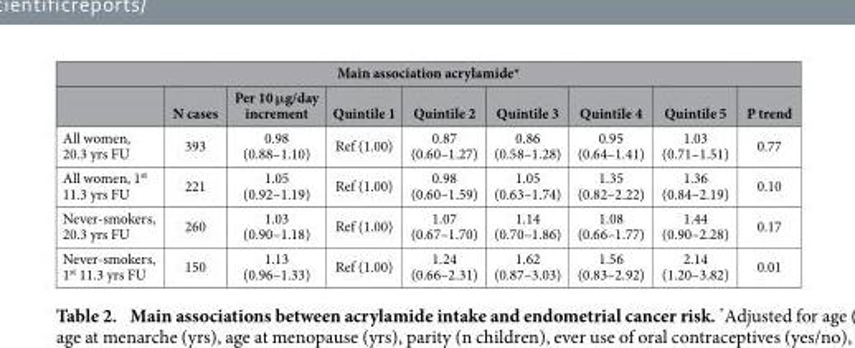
<table><thead><tr><td colspan="9">Main association acrylamide*</td></tr><tr><td></td><td>N cases</td><td>Per 10 μg/day increment</td><td>Quintile 1</td><td>Quintile 2</td><td>Quintile 3</td><td>Quintile 4</td><td>Quintile 5</td><td>P trend</td></tr></thead><tbody><tr><td>All women, 20.3 yrs FU</td><td>393</td><td>0.98 (0.88–1.10)</td><td>Ref (1.00)</td><td>0.87 (0.60–1.27)</td><td>0.86 (0.58–1.28)</td><td>0.95 (0.64–1.41)</td><td>1.03 (0.71–1.51)</td><td>0.77</td></tr><tr><td>All women, 1<sup>st</sup> 11.3 yrs FU</td><td>221</td><td>1.05 (0.92–1.19)</td><td>Ref (1.00)</td><td>0.98 (0.60–1.59)</td><td>1.05 (0.63–1.74)</td><td>1.35 (0.82–2.22)</td><td>1.36 (0.84–2.19)</td><td>0.10</td></tr><tr><td>Never-smokers, 20.3 yrs FU</td><td>260</td><td>1.03 (0.90–1.18)</td><td>Ref (1.00)</td><td>1.07 (0.67–1.70)</td><td>1.14 (0.70–1.86)</td><td>1.08 (0.66–1.77)</td><td>1.44 (0.90–2.28)</td><td>0.17</td></tr><tr><td>Never-smokers, 1<sup>st</sup> 11.3 yrs FU</td><td>150</td><td>1.13 (0.96–1.33)</td><td>Ref (1.00)</td><td>1.24 (0.66–2.31)</td><td>1.62 (0.87–3.03)</td><td>1.56 (0.83–2.92)</td><td>2.14 (1.20–3.82)</td><td>0.01</td></tr></tbody></table>